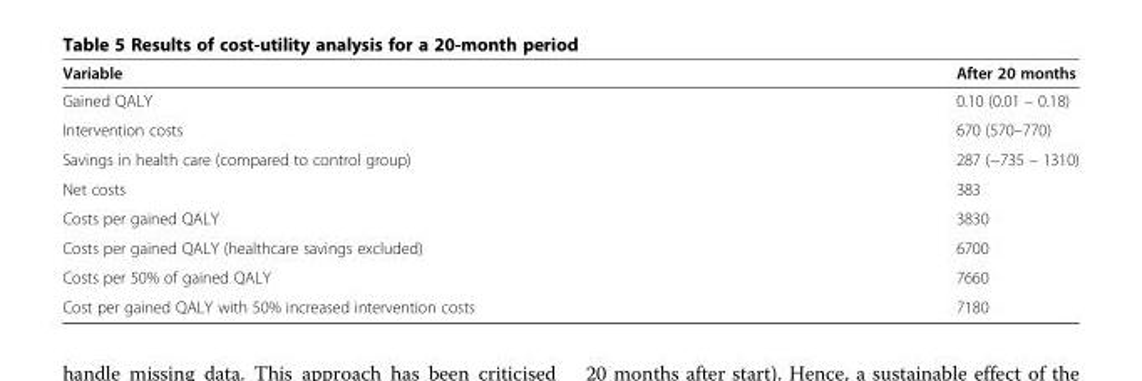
<table><thead><tr><td>Variable</td><td>After 20 months</td></tr></thead><tbody><tr><td>Gained QALY</td><td>0.10 (0.01 – 0.18)</td></tr><tr><td>Intervention costs</td><td>670 (570–770)</td></tr><tr><td>Savings in health care (compared to control group)</td><td>287 (−735 – 1310)</td></tr><tr><td>Net costs</td><td>383</td></tr><tr><td>Costs per gained QALY</td><td>3830</td></tr><tr><td>Costs per gained QALY (healthcare savings excluded)</td><td>6700</td></tr><tr><td>Costs per 50% of gained QALY</td><td>7660</td></tr><tr><td>Cost per gained QALY with 50% increased intervention costs</td><td>7180</td></tr></tbody></table>